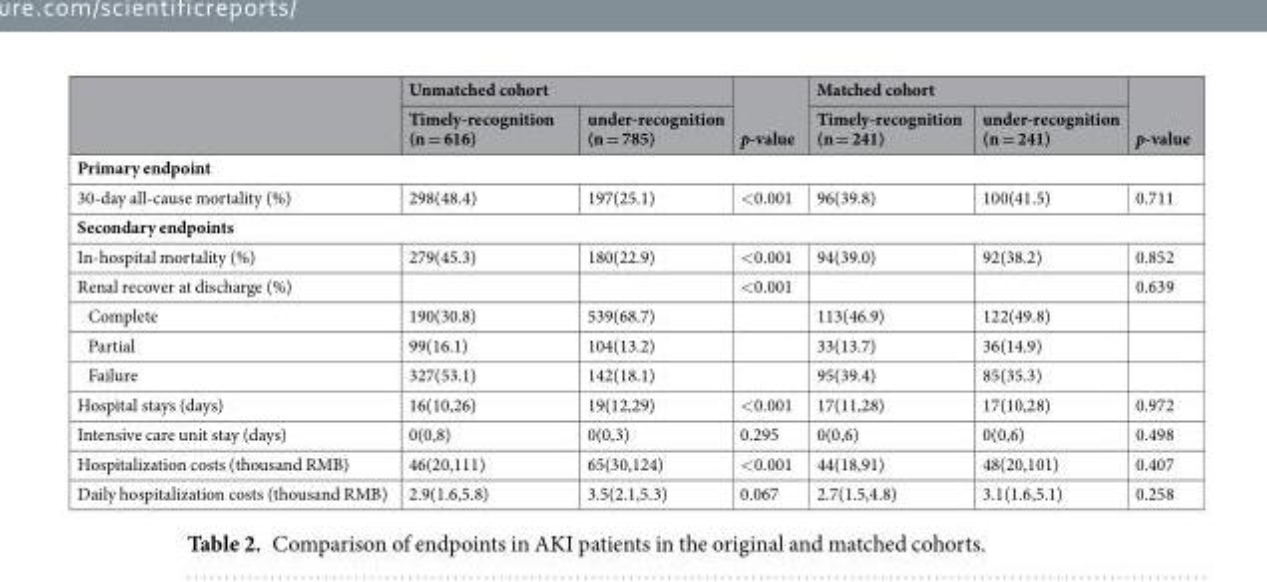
<table><thead><tr><td rowspan="2"></td><td colspan="2">Unmatched cohort</td><td rowspan="2">p-value</td><td colspan="2">Matched cohort</td><td rowspan="2">p-value</td></tr><tr><td>Timely-recognition (n = 616)</td><td>under-recognition (n = 785)</td><td>Timely-recognition (n = 241)</td><td>under-recognition (n = 241)</td></tr></thead><tbody><tr><td colspan="7">Primary endpoint</td></tr><tr><td>30-day all-cause mortality (%)</td><td>298(48.4)</td><td>197(25.1)</td><td>&lt;0.001</td><td>96(39.8)</td><td>100(41.5)</td><td>0.711</td></tr><tr><td colspan="7">Secondary endpoints</td></tr><tr><td>In-hospital mortality (%)</td><td>279(45.3)</td><td>180(22.9)</td><td>&lt;0.001</td><td>94(39.0)</td><td>92(38.2)</td><td>0.852</td></tr><tr><td>Renal recover at discharge (%)</td><td></td><td></td><td>&lt;0.001</td><td></td><td></td><td>0.639</td></tr><tr><td>Complete</td><td>190(30.8)</td><td>539(68.7)</td><td></td><td>113(46.9)</td><td>122(49.8)</td><td></td></tr><tr><td>Partial</td><td>99(16.1)</td><td>104(13.2)</td><td></td><td>33(13.7)</td><td>36(14.9)</td><td></td></tr><tr><td>Failure</td><td>327(53.1)</td><td>142(18.1)</td><td></td><td>95(39.4)</td><td>85(35.3)</td><td></td></tr><tr><td>Hospital stays (days)</td><td>16(10,26)</td><td>19(12,29)</td><td>&lt;0.001</td><td>17(11,28)</td><td>17(10,28)</td><td>0.972</td></tr><tr><td>Intensive care unit stay (days)</td><td>0(0,8)</td><td>0(0,3)</td><td>0.295</td><td>0(0,6)</td><td>0(0,6)</td><td>0.498</td></tr><tr><td>Hospitalization costs (thousand RMB)</td><td>46(20,111)</td><td>65(30,124)</td><td>&lt;0.001</td><td>44(18,91)</td><td>48(20,101)</td><td>0.407</td></tr><tr><td>Daily hospitalization costs (thousand RMB)</td><td>2.9(1.6,5.8)</td><td>3.5(2.1,5.3)</td><td>0.067</td><td>2.7(1.5,4.8)</td><td>3.1(1.6,5.1)</td><td>0.258</td></tr></tbody></table>